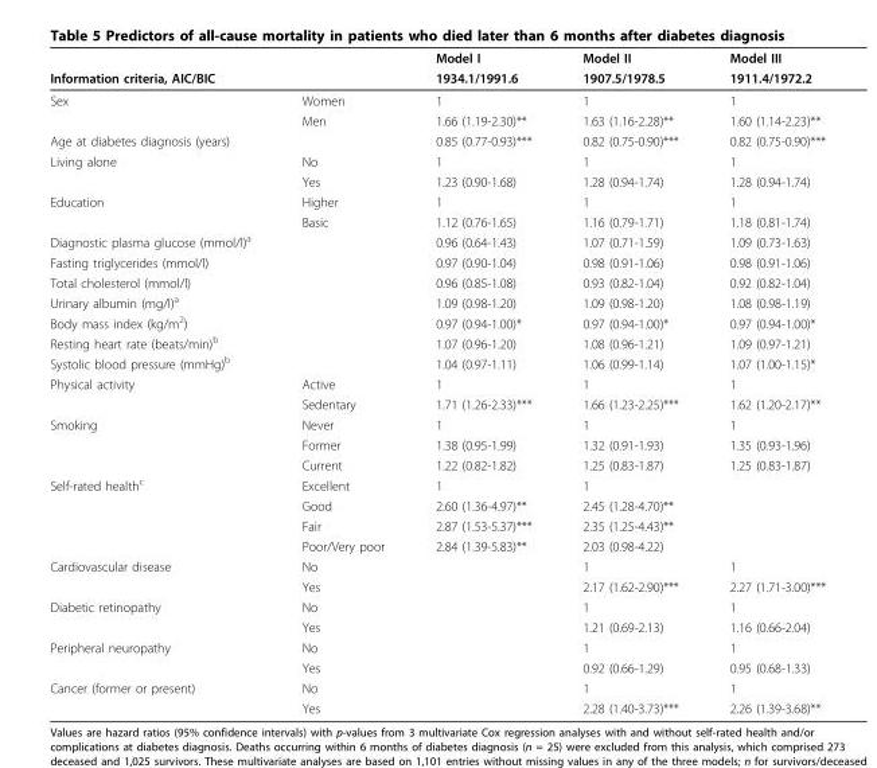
<table><thead><tr><td rowspan="2">Information criteria, AIC/BIC</td><td rowspan="2"></td><td rowspan="2">Model I 1934.1/1991.6</td><td rowspan="2">Model II 1907.5/1978.5</td><td rowspan="2">Model III 1911.4/1972.2</td></tr><tr></tr></thead><tbody><tr><td rowspan="2">Sex</td><td>Women</td><td>1</td><td>1</td><td>1</td></tr><tr><td>Men</td><td>1.66 (1.19-2.30)**</td><td>1.63 (1.16-2.28)**</td><td>1.60 (1.14-2.23)**</td></tr><tr><td>Age at diabetes diagnosis (years)</td><td></td><td>0.85 (0.77-0.93)***</td><td>0.82 (0.75-0.90)***</td><td>0.82 (0.75-0.90)***</td></tr><tr><td rowspan="2">Living alone</td><td>No</td><td>1</td><td>1</td><td>1</td></tr><tr><td>Yes</td><td>1.23 (0.90-1.68)</td><td>1.28 (0.94-1.74)</td><td>1.28 (0.94-1.74)</td></tr><tr><td rowspan="2">Education</td><td>Higher</td><td>1</td><td>1</td><td>1</td></tr><tr><td>Basic</td><td>1.12 (0.76-1.65)</td><td>1.16 (0.79-1.71)</td><td>1.18 (0.81-1.74)</td></tr><tr><td>Diagnostic plasma glucose (mmol/l)<sup>a</sup></td><td></td><td>0.96 (0.64-1.43)</td><td>1.07 (0.71-1.59)</td><td>1.09 (0.73-1.63)</td></tr><tr><td>Fasting triglycerides (mmol/l)</td><td></td><td>0.97 (0.90-1.04)</td><td>0.98 (0.91-1.06)</td><td>0.98 (0.91-1.06)</td></tr><tr><td>Total cholesterol (mmol/l)</td><td></td><td>0.96 (0.85-1.08)</td><td>0.93 (0.82-1.04)</td><td>0.92 (0.82-1.04)</td></tr><tr><td>Urinary albumin (mg/l)<sup>a</sup></td><td></td><td>1.09 (0.98-1.20)</td><td>1.09 (0.98-1.20)</td><td>1.08 (0.98-1.19)</td></tr><tr><td>Body mass index (kg/m<sup>2</sup>)</td><td></td><td>0.97 (0.94-1.00)*</td><td>0.97 (0.94-1.00)*</td><td>0.97 (0.94-1.00)*</td></tr><tr><td>Resting heart rate (beats/min)<sup>b</sup></td><td></td><td>1.07 (0.96-1.20)</td><td>1.08 (0.96-1.21)</td><td>1.09 (0.97-1.21)</td></tr><tr><td>Systolic blood pressure (mmHg)<sup>b</sup></td><td></td><td>1.04 (0.97-1.11)</td><td>1.06 (0.99-1.14)</td><td>1.07 (1.00-1.15)*</td></tr><tr><td rowspan="2">Physical activity</td><td>Active</td><td>1</td><td>1</td><td>1</td></tr><tr><td>Sedentary</td><td>1.71 (1.26-2.33)***</td><td>1.66 (1.23-2.25)***</td><td>1.62 (1.20-2.17)**</td></tr><tr><td rowspan="3">Smoking</td><td>Never</td><td>1</td><td>1</td><td>1</td></tr><tr><td>Former</td><td>1.38 (0.95-1.99)</td><td>1.32 (0.91-1.93)</td><td>1.35 (0.93-1.96)</td></tr><tr><td>Current</td><td>1.22 (0.82-1.82)</td><td>1.25 (0.83-1.87)</td><td>1.25 (0.83-1.87)</td></tr><tr><td rowspan="4">Self-rated health<sup>c</sup></td><td>Excellent</td><td>1</td><td>1</td><td></td></tr><tr><td>Good</td><td>2.60 (1.36-4.97)**</td><td>2.45 (1.28-4.70)**</td><td></td></tr><tr><td>Fair</td><td>2.87 (1.53-5.37)***</td><td>2.35 (1.25-4.43)**</td><td></td></tr><tr><td>Poor/Very poor</td><td>2.84 (1.39-5.83)**</td><td>2.03 (0.98-4.22)</td><td></td></tr><tr><td rowspan="2">Cardiovascular disease</td><td>No</td><td></td><td>1</td><td>1</td></tr><tr><td>Yes</td><td></td><td>2.17 (1.62-2.90)***</td><td>2.27 (1.71-3.00)***</td></tr><tr><td rowspan="2">Diabetic retinopathy</td><td>No</td><td></td><td>1</td><td>1</td></tr><tr><td>Yes</td><td></td><td>1.21 (0.69-2.13)</td><td>1.16 (0.66-2.04)</td></tr><tr><td rowspan="2">Peripheral neuropathy</td><td>No</td><td></td><td>1</td><td>1</td></tr><tr><td>Yes</td><td></td><td>0.92 (0.66-1.29)</td><td>0.95 (0.68-1.33)</td></tr><tr><td rowspan="2">Cancer (former or present)</td><td>No</td><td></td><td>1</td><td>1</td></tr><tr><td>Yes</td><td></td><td>2.28 (1.40-3.73)***</td><td>2.26 (1.39-3.68)**</td></tr></tbody></table>